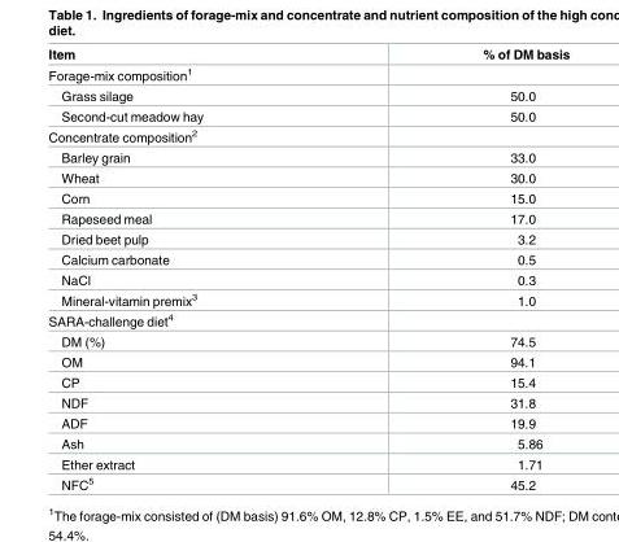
<table><thead><tr><td>Item</td><td>% of DM basis</td></tr></thead><tbody><tr><td colspan="2">Forage-mix composition<sup>1</sup></td></tr><tr><td>Grass silage</td><td>50.0</td></tr><tr><td>Second-cut meadow hay</td><td>50.0</td></tr><tr><td colspan="2">Concentrate composition<sup>2</sup></td></tr><tr><td>Barley grain</td><td>33.0</td></tr><tr><td>Wheat</td><td>30.0</td></tr><tr><td>Corn</td><td>15.0</td></tr><tr><td>Rapeseed meal</td><td>17.0</td></tr><tr><td>Dried beet pulp</td><td>3.2</td></tr><tr><td>Calcium carbonate</td><td>0.5</td></tr><tr><td>NaCl</td><td>0.3</td></tr><tr><td>Mineral-vitamin premix<sup>3</sup></td><td>1.0</td></tr><tr><td colspan="2">SARA-challenge diet<sup>4</sup></td></tr><tr><td>DM (%)</td><td>74.5</td></tr><tr><td>OM</td><td>94.1</td></tr><tr><td>CP</td><td>15.4</td></tr><tr><td>NDF</td><td>31.8</td></tr><tr><td>ADF</td><td>19.9</td></tr><tr><td>Ash</td><td>5.86</td></tr><tr><td>Ether extract</td><td>1.71</td></tr><tr><td>NFC<sup>5</sup></td><td>45.2</td></tr></tbody></table>